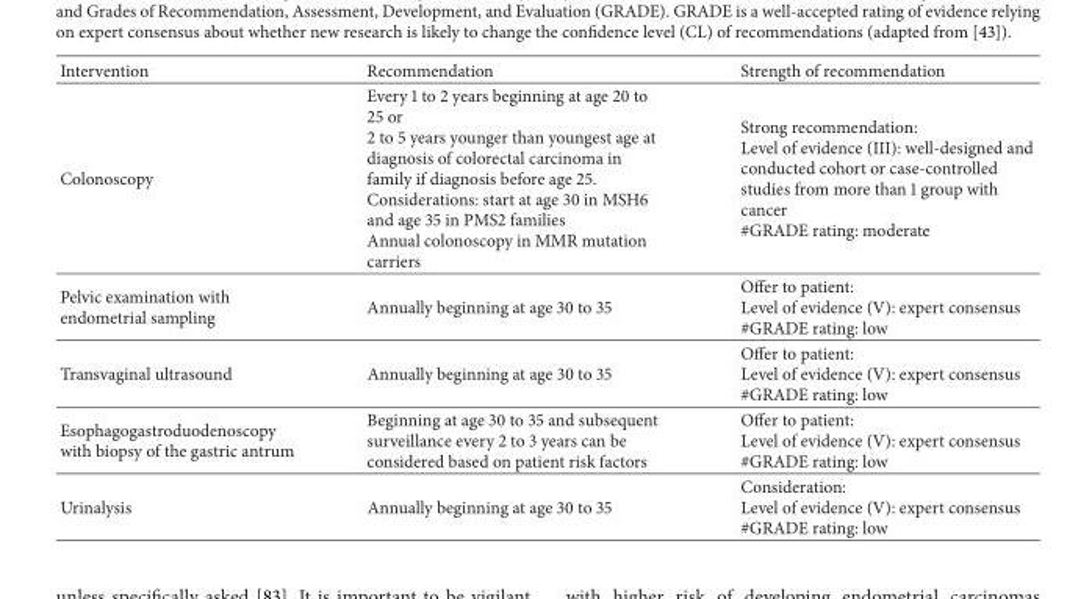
<table><thead><tr><td>Intervention</td><td>Recommendation</td><td>Strength of recommendation</td></tr></thead><tbody><tr><td>Colonoscopy</td><td>Every 1 to 2 years beginning at age 20 to 25 or 2 to 5 years younger than youngest age at diagnosis of colorectal carcinoma in family if diagnosis before age 25. Considerations: start at age 30 in MSH6 and age 35 in PMS2 families Annual colonoscopy in MMR mutation carriers</td><td>Strong recommendation: Level of evidence (III): well-designed and conducted cohort or case-controlled studies from more than 1 group with cancer #GRADE rating: moderate</td></tr><tr><td>Pelvic examination with endometrial sampling</td><td>Annually beginning at age 30 to 35</td><td>Offer to patient: Level of evidence (V): expert consensus #GRADE rating: low</td></tr><tr><td>Transvaginal ultrasound</td><td>Annually beginning at age 30 to 35</td><td>Offer to patient: Level of evidence (V): expert consensus #GRADE rating: low</td></tr><tr><td>Esophagogastroduodenoscopy with biopsy of the gastric antrum</td><td>Beginning at age 30 to 35 and subsequent surveillance every 2 to 3 years can be considered based on patient risk factors</td><td>Offer to patient: Level of evidence (V): expert consensus #GRADE rating: low</td></tr><tr><td>Urinalysis</td><td>Annually beginning at age 30 to 35</td><td>Consideration: Level of evidence (V): expert consensus #GRADE rating: low</td></tr></tbody></table>